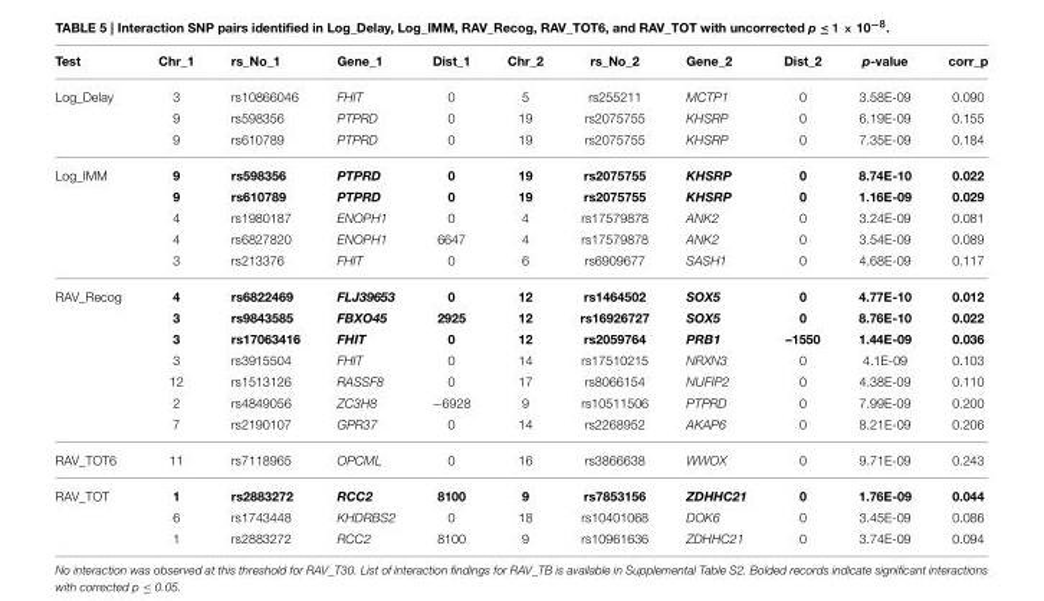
<table><thead><tr><td>Test</td><td>Chr_1</td><td>rs_No_1</td><td>Gene_1</td><td>Dist_1</td><td>Chr_2</td><td>rs_No_2</td><td>Gene_2</td><td>Dist_2</td><td>p-value</td><td>corr_p</td></tr></thead><tbody><tr><td rowspan="3">Log_Delay</td><td>3</td><td>rs10866046</td><td>FHIT</td><td>0</td><td>5</td><td>rs255211</td><td>MCTP1</td><td>0</td><td>3.58E-09</td><td>0.090</td></tr><tr><td>9</td><td>rs598356</td><td>PTPRD</td><td>0</td><td>19</td><td>rs2075755</td><td>KHSRP</td><td>0</td><td>6.19E-09</td><td>0.155</td></tr><tr><td>9</td><td>rs610789</td><td>PTPRD</td><td>0</td><td>19</td><td>rs2075755</td><td>KHSRP</td><td>0</td><td>7.35E-09</td><td>0.184</td></tr><tr><td rowspan="5">Log_IMM</td><td>9</td><td>rs598356</td><td>PTPRD</td><td>0</td><td>19</td><td>rs2075755</td><td>KHSRP</td><td>0</td><td>8.74E-10</td><td>0.022</td></tr><tr><td>9</td><td>rs610789</td><td>PTPRD</td><td>0</td><td>19</td><td>rs2075755</td><td>KHSRP</td><td>0</td><td>1.16E-09</td><td>0.029</td></tr><tr><td>4</td><td>rs1980187</td><td>ENOPH1</td><td>0</td><td>4</td><td>rs17579878</td><td>ANK2</td><td>0</td><td>3.24E-09</td><td>0.081</td></tr><tr><td>4</td><td>rs6827820</td><td>ENOPH1</td><td>6647</td><td>4</td><td>rs17579878</td><td>ANK2</td><td>0</td><td>3.54E-09</td><td>0.089</td></tr><tr><td>3</td><td>rs213376</td><td>FHIT</td><td>0</td><td>6</td><td>rs6909677</td><td>SASH1</td><td>0</td><td>4.68E-09</td><td>0.117</td></tr><tr><td rowspan="7">RAV_Recog</td><td>4</td><td>rs6822469</td><td>FLJ39653</td><td>0</td><td>12</td><td>rs1464502</td><td>SOX5</td><td>0</td><td>4.77E-10</td><td>0.012</td></tr><tr><td>3</td><td>rs9843585</td><td>FBXO45</td><td>2925</td><td>12</td><td>rs16926727</td><td>SOX5</td><td>0</td><td>8.76E-10</td><td>0.022</td></tr><tr><td>3</td><td>rs17063416</td><td>FHIT</td><td>0</td><td>12</td><td>rs2059764</td><td>PRB1</td><td>–1550</td><td>1.44E-09</td><td>0.036</td></tr><tr><td>3</td><td>rs3915504</td><td>FHIT</td><td>0</td><td>14</td><td>rs17510215</td><td>NRXN3</td><td>0</td><td>4.1E-09</td><td>0.103</td></tr><tr><td>12</td><td>rs1513126</td><td>RASSF8</td><td>0</td><td>17</td><td>rs8066154</td><td>NUFIP2</td><td>0</td><td>4.38E-09</td><td>0.110</td></tr><tr><td>2</td><td>rs4849056</td><td>ZC3H8</td><td>−6928</td><td>9</td><td>rs10511506</td><td>PTPRD</td><td>0</td><td>7.99E-09</td><td>0.200</td></tr><tr><td>7</td><td>rs2190107</td><td>GPR37</td><td>0</td><td>14</td><td>rs2268952</td><td>AKAP6</td><td>0</td><td>8.21E-09</td><td>0.206</td></tr><tr><td>RAV_TOT6</td><td>11</td><td>rs7118965</td><td>OPCML</td><td>0</td><td>16</td><td>rs3866638</td><td>WWOX</td><td>0</td><td>9.71E-09</td><td>0.243</td></tr><tr><td rowspan="3">RAV_TOT</td><td>1</td><td>rs2883272</td><td>RCC2</td><td>8100</td><td>9</td><td>rs7853156</td><td>ZDHHC21</td><td>0</td><td>1.76E-09</td><td>0.044</td></tr><tr><td>6</td><td>rs1743448</td><td>KHDRBS2</td><td>0</td><td>18</td><td>rs10401068</td><td>DOK6</td><td>0</td><td>3.45E-09</td><td>0.086</td></tr><tr><td>1</td><td>rs2883272</td><td>RCC2</td><td>8100</td><td>9</td><td>rs10961636</td><td>ZDHHC21</td><td>0</td><td>3.74E-09</td><td>0.094</td></tr></tbody></table>